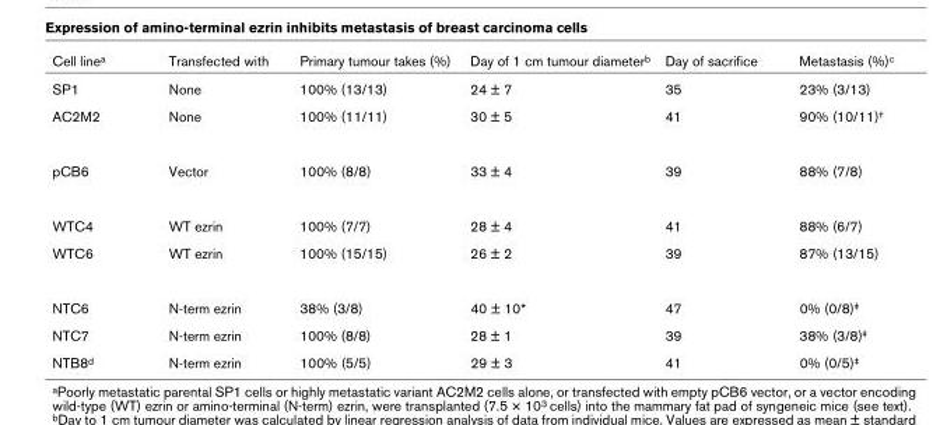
<table><thead><tr><td>Cell linea</td><td>Transfected with</td><td>Primary tumour takes (%)</td><td>Day of 1 cm tumour diameterb</td><td>Day of sacrifice</td><td>Metastasis (%)c</td></tr></thead><tbody><tr><td>SP1</td><td>None</td><td>100% (13/13)</td><td>24 ± 7</td><td>35</td><td>23% (3/13)</td></tr><tr><td>AC2M2</td><td>None</td><td>100% (11/11)</td><td>30 ± 5</td><td>41</td><td>90% (10/11)†</td></tr><tr><td>pCB6</td><td>Vector</td><td>100% (8/8)</td><td>33 ± 4</td><td>39</td><td>88% (7/8)</td></tr><tr><td>WTC4</td><td>WT ezrin</td><td>100% (7/7)</td><td>28 ± 4</td><td>41</td><td>88% (6/7)</td></tr><tr><td>WTC6</td><td>WT ezrin</td><td>100% (15/15)</td><td>26 ± 2</td><td>39</td><td>87% (13/15)</td></tr><tr><td>NTC6</td><td>N-term ezrin</td><td>38% (3/8)</td><td>40 ± 10*</td><td>47</td><td>0% (0/8)‡</td></tr><tr><td>NTC7</td><td>N-term ezrin</td><td>100% (8/8)</td><td>28 ± 1</td><td>39</td><td>38% (3/8)‡</td></tr><tr><td>NTB8d</td><td>N-term ezrin</td><td>100% (5/5)</td><td>29 ± 3</td><td>41</td><td>0% (0/5)‡</td></tr></tbody></table>